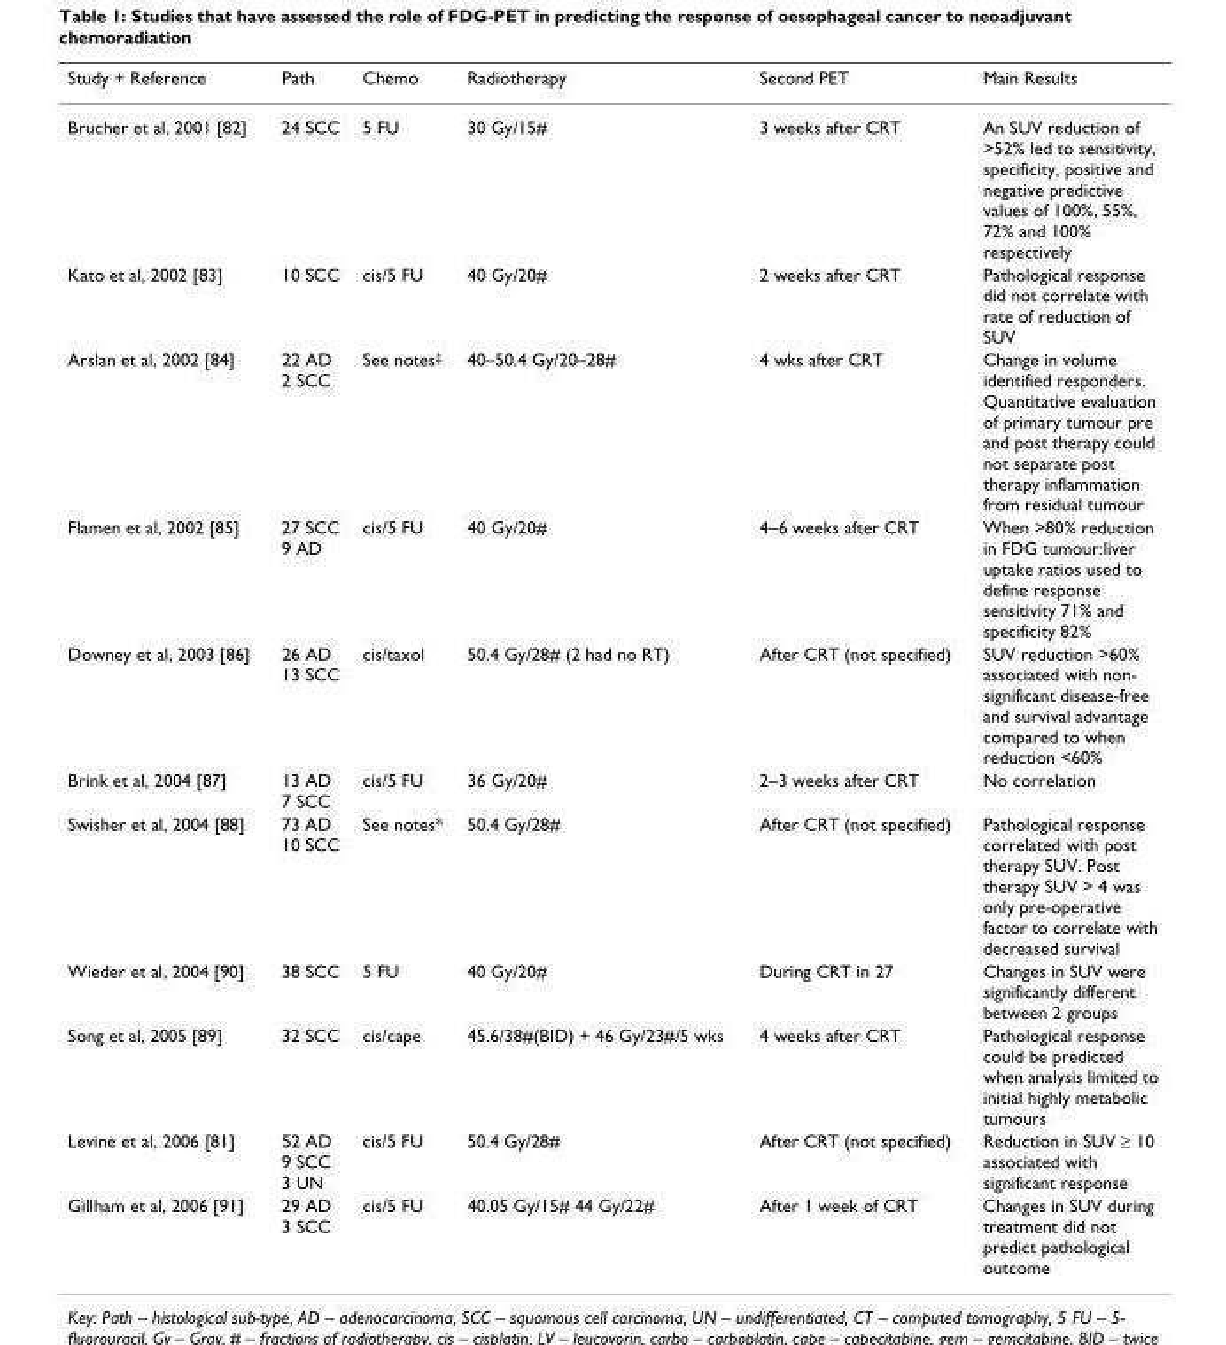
<table><thead><tr><td>Study + Reference</td><td>Path</td><td>Chemo</td><td>Radiotherapy</td><td>Second PET</td><td>Main Results</td></tr></thead><tbody><tr><td>Brucher et al, 2001 [82]</td><td>24 SCC</td><td>5 FU</td><td>30 Gy/15#</td><td>3 weeks after CRT</td><td>An SUV reduction of &gt;52% led to sensitivity, specificity, positive and negative predictive values of 100%, 55%, 72% and 100% respectively</td></tr><tr><td>Kato et al, 2002 [83]</td><td>10 SCC</td><td>cis/5 FU</td><td>40 Gy/20#</td><td>2 weeks after CRT</td><td>Pathological response did not correlate with rate of reduction of SUV</td></tr><tr><td>Arslan et al, 2002 [84]</td><td>22 AD 2 SCC</td><td>See notes<sup>‡</sup></td><td>40–50.4 Gy/20–28#</td><td>4 wks after CRT</td><td>Change in volume identified responders. Quantitative evaluation of primary tumour pre and post therapy could not separate post therapy inflammation from residual tumour</td></tr><tr><td>Flamen et al, 2002 [85]</td><td>27 SCC 9 AD</td><td>cis/5 FU</td><td>40 Gy/20#</td><td>4–6 weeks after CRT</td><td>When &gt;80% reduction in FDG tumour:liver uptake ratios used to define response sensitivity 71% and specificity 82%</td></tr><tr><td>Downey et al, 2003 [86]</td><td>26 AD 13 SCC</td><td>cis/taxol</td><td>50.4 Gy/28# (2 had no RT)</td><td>After CRT (not specified)</td><td>SUV reduction &gt;60% associated with non- significant disease-free and survival advantage compared to when reduction &lt;60%</td></tr><tr><td>Brink et al, 2004 [87]</td><td>13 AD 7 SCC</td><td>cis/5 FU</td><td>36 Gy/20#</td><td>2–3 weeks after CRT</td><td>No correlation</td></tr><tr><td>Swisher et al, 2004 [88]</td><td>73 AD 10 SCC</td><td>See notes*</td><td>50.4 Gy/28#</td><td>After CRT (not specified)</td><td>Pathological response correlated with post therapy SUV. Post therapy SUV &gt; 4 was only pre-operative factor to correlate with decreased survival</td></tr><tr><td>Wieder et al, 2004 [90]</td><td>38 SCC</td><td>5 FU</td><td>40 Gy/20#</td><td>During CRT in 27</td><td>Changes in SUV were significantly different between 2 groups</td></tr><tr><td>Song et al, 2005 [89]</td><td>32 SCC</td><td>cis/cape</td><td>45.6/38#(BID) + 46 Gy/23#/5 wks</td><td>4 weeks after CRT</td><td>Pathological response could be predicted when analysis limited to initial highly metabolic tumours</td></tr><tr><td>Levine et al, 2006 [81]</td><td>52 AD 9 SCC 3 UN</td><td>cis/5 FU</td><td>50.4 Gy/28#</td><td>After CRT (not specified)</td><td>Reduction in SUV ≥ 10 associated with significant response</td></tr><tr><td>Gillham et al, 2006 [91]</td><td>29 AD 3 SCC</td><td>cis/5 FU</td><td>40.05 Gy/15# 44 Gy/22#</td><td>After 1 week of CRT</td><td>Changes in SUV during treatment did not predict pathological outcome</td></tr></tbody></table>